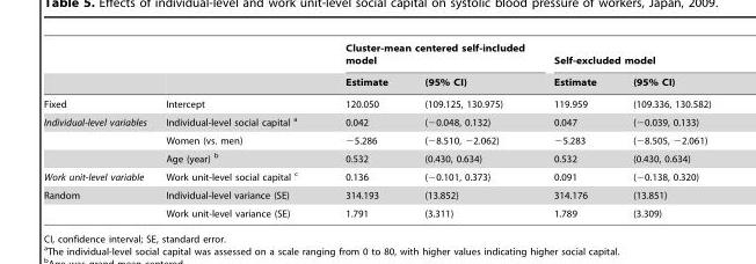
<table><thead><tr><td rowspan="2"></td><td rowspan="2"></td><td colspan="2">Cluster-mean centered self-included model</td><td colspan="2">Self-excluded model</td></tr><tr><td>Estimate</td><td>(95% CI)</td><td>Estimate</td><td>(95% CI)</td></tr></thead><tbody><tr><td>Fixed</td><td>Intercept</td><td>120.050</td><td>(109.125, 130.975)</td><td>119.959</td><td>(109.336, 130.582)</td></tr><tr><td rowspan="3">Individual-level variables</td><td>Individual-level social capital a</td><td>0.042</td><td>(−0.048, 0.132)</td><td>0.047</td><td>(−0.039, 0.133)</td></tr><tr><td>Women (vs. men)</td><td>−5.286</td><td>(−8.510, −2.062)</td><td>−5.283</td><td>(−8.505, −2.061)</td></tr><tr><td>Age (year) b</td><td>0.532</td><td>(0.430, 0.634)</td><td>0.532</td><td>(0.430, 0.634)</td></tr><tr><td>Work unit-level variable</td><td>Work unit-level social capital c</td><td>0.136</td><td>(−0.101, 0.373)</td><td>0.091</td><td>(−0.138, 0.320)</td></tr><tr><td rowspan="2">Random</td><td>Individual-level variance (SE)</td><td>314.193</td><td>(13.852)</td><td>314.176</td><td>(13.851)</td></tr><tr><td>Work unit-level variance (SE)</td><td>1.791</td><td>(3.311)</td><td>1.789</td><td>(3.309)</td></tr></tbody></table>